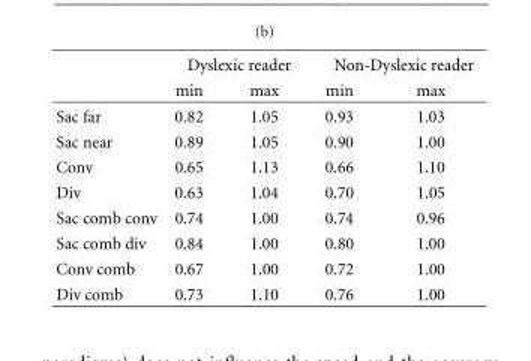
<table><thead><tr><td rowspan="2"></td><td colspan="2">Dyslexic reader</td><td colspan="2">Non-Dyslexic reader</td></tr><tr><td>min</td><td>max</td><td>min</td><td>max</td></tr></thead><tbody><tr><td>Sac far</td><td>0.82</td><td>1.05</td><td>0.93</td><td>1.03</td></tr><tr><td>Sac near</td><td>0.89</td><td>1.05</td><td>0.90</td><td>1.00</td></tr><tr><td>Conv</td><td>0.65</td><td>1.13</td><td>0.66</td><td>1.10</td></tr><tr><td>Div</td><td>0.63</td><td>1.04</td><td>0.70</td><td>1.05</td></tr><tr><td>Sac comb conv</td><td>0.74</td><td>1.00</td><td>0.74</td><td>0.96</td></tr><tr><td>Sac comb div</td><td>0.84</td><td>1.00</td><td>0.80</td><td>1.00</td></tr><tr><td>Conv comb</td><td>0.67</td><td>1.00</td><td>0.72</td><td>1.00</td></tr><tr><td>Div comb</td><td>0.73</td><td>1.10</td><td>0.76</td><td>1.00</td></tr></tbody></table>